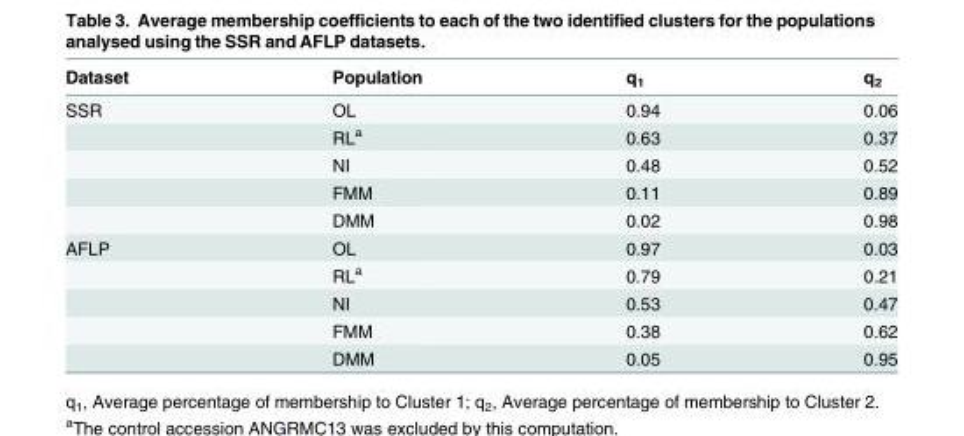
<table><thead><tr><td>Dataset</td><td>Population</td><td>q<sub>1</sub></td><td>q<sub>2</sub></td></tr></thead><tbody><tr><td rowspan="5">SSR</td><td>OL</td><td>0.94</td><td>0.06</td></tr><tr><td>RL<sup>a</sup></td><td>0.63</td><td>0.37</td></tr><tr><td>NI</td><td>0.48</td><td>0.52</td></tr><tr><td>FMM</td><td>0.11</td><td>0.89</td></tr><tr><td>DMM</td><td>0.02</td><td>0.98</td></tr><tr><td rowspan="5">AFLP</td><td>OL</td><td>0.97</td><td>0.03</td></tr><tr><td>RL<sup>a</sup></td><td>0.79</td><td>0.21</td></tr><tr><td>NI</td><td>0.53</td><td>0.47</td></tr><tr><td>FMM</td><td>0.38</td><td>0.62</td></tr><tr><td>DMM</td><td>0.05</td><td>0.95</td></tr></tbody></table>